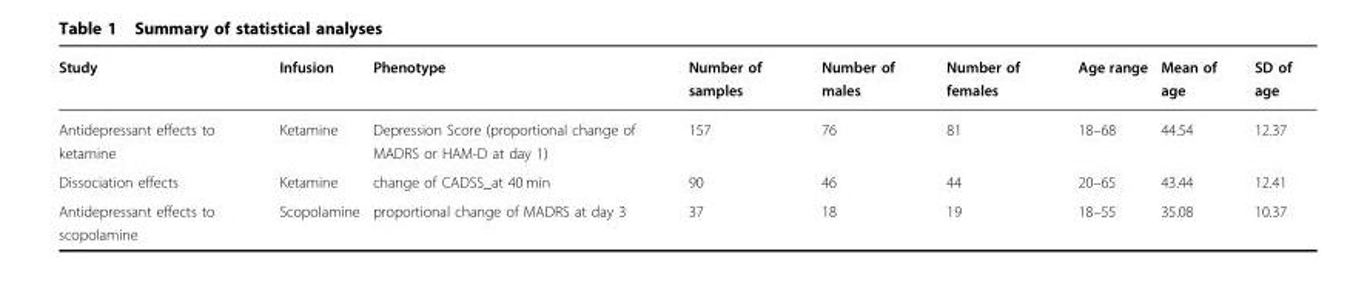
<table><thead><tr><td>Study</td><td>Infusion</td><td>Phenotype</td><td>Number of samples</td><td>Number of males</td><td>Number of females</td><td>Age range</td><td>Mean of age</td><td>SD of age</td></tr></thead><tbody><tr><td>Antidepressant effects to ketamine</td><td>Ketamine</td><td>Depression Score (proportional change of MADRS or HAM-D at day 1)</td><td>157</td><td>76</td><td>81</td><td>18–68</td><td>44.54</td><td>12.37</td></tr><tr><td>Dissociation effects</td><td>Ketamine</td><td>change of CADSS_at 40 min</td><td>90</td><td>46</td><td>44</td><td>20–65</td><td>43.44</td><td>12.41</td></tr><tr><td>Antidepressant effects to scopolamine</td><td>Scopolamine</td><td>proportional change of MADRS at day 3</td><td>37</td><td>18</td><td>19</td><td>18–55</td><td>35.08</td><td>10.37</td></tr></tbody></table>